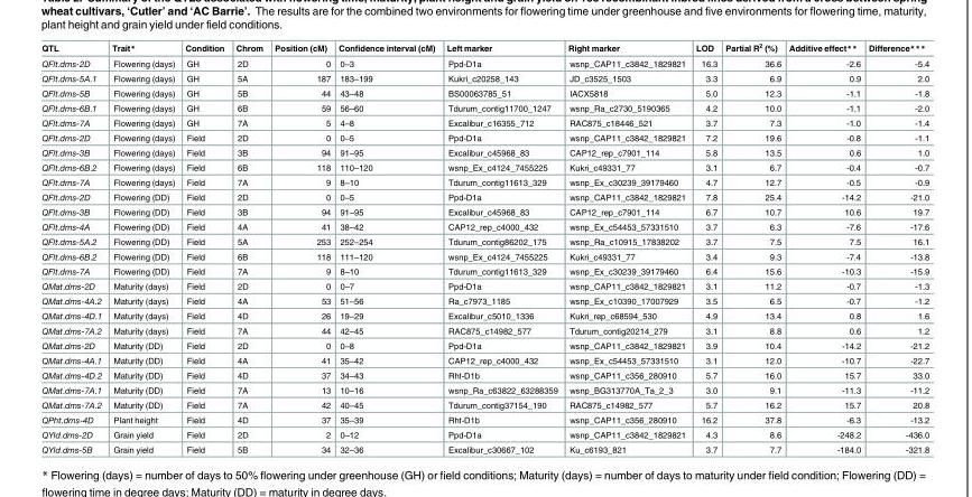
<table><thead><tr><td>QTL</td><td>Trait*</td><td>Condition</td><td>Chrom</td><td>Position (cM)</td><td>Confidence interval (cM)</td><td>Left marker</td><td>Right marker</td><td>LOD</td><td>Partial R<sup>2</sup> (%)</td><td>Additive effect**</td><td>Difference***</td></tr></thead><tbody><tr><td>QFlt.dms-2D</td><td>Flowering (days)</td><td>GH</td><td>2D</td><td>0</td><td>0–3</td><td>Ppd-D1a</td><td>wsnp_CAP11_c3842_1829821</td><td>16.3</td><td>36.6</td><td>-2.6</td><td>-5.4</td></tr><tr><td>QFlt.dms-5A.1</td><td>Flowering (days)</td><td>GH</td><td>5A</td><td>187</td><td>183–199</td><td>Kukri_c20258_143</td><td>JD_c3525_1503</td><td>3.3</td><td>6.9</td><td>0.9</td><td>2.0</td></tr><tr><td>QFlt.dms-5B</td><td>Flowering (days)</td><td>GH</td><td>5B</td><td>44</td><td>43–48</td><td>BS00063785_51</td><td>IACX5818</td><td>5.0</td><td>12.3</td><td>-1.1</td><td>-1.8</td></tr><tr><td>QFlt.dms-6B.1</td><td>Flowering (days)</td><td>GH</td><td>6B</td><td>59</td><td>56–60</td><td>Tdurum_contig11700_1247</td><td>wsnp_Ra_c2730_5190365</td><td>4.2</td><td>10.0</td><td>-1.1</td><td>-2.0</td></tr><tr><td>QFlt.dms-7A</td><td>Flowering (days)</td><td>GH</td><td>7A</td><td>5</td><td>4–8</td><td>Excalibur_c16355_712</td><td>RAC875_c18446_521</td><td>3.7</td><td>7.3</td><td>-1.0</td><td>-1.4</td></tr><tr><td>QFlt.dms-2D</td><td>Flowering (days)</td><td>Field</td><td>2D</td><td>0</td><td>0–5</td><td>Ppd-D1a</td><td>wsnp_CAP11_c3842_1829821</td><td>7.2</td><td>19.6</td><td>-0.8</td><td>-1.1</td></tr><tr><td>QFlt.dms-3B</td><td>Flowering (days)</td><td>Field</td><td>3B</td><td>94</td><td>91–95</td><td>Excalibur_c45968_83</td><td>CAP12_rep_c7901_114</td><td>5.8</td><td>13.5</td><td>0.6</td><td>1.0</td></tr><tr><td>QFlt.dms-6B.2</td><td>Flowering (days)</td><td>Field</td><td>6B</td><td>118</td><td>110–120</td><td>wsnp_Ex_c4124_7455225</td><td>Kukri_c49331_77</td><td>3.1</td><td>6.7</td><td>-0.4</td><td>-0.7</td></tr><tr><td>QFlt.dms-7A</td><td>Flowering (days)</td><td>Field</td><td>7A</td><td>9</td><td>8–10</td><td>Tdurum_contig11613_329</td><td>wsnp_Ex_c30239_39179460</td><td>4.7</td><td>12.7</td><td>-0.5</td><td>-0.9</td></tr><tr><td>QFlt.dms-2D</td><td>Flowering (DD)</td><td>Field</td><td>2D</td><td>0</td><td>0–5</td><td>Ppd-D1a</td><td>wsnp_CAP11_c3842_1829821</td><td>7.8</td><td>25.4</td><td>-14.2</td><td>-21.0</td></tr><tr><td>QFlt.dms-3B</td><td>Flowering (DD)</td><td>Field</td><td>3B</td><td>94</td><td>91–95</td><td>Excalibur_c45968_83</td><td>CAP12_rep_c7901_114</td><td>6.7</td><td>10.7</td><td>10.6</td><td>19.7</td></tr><tr><td>QFlt.dms-4A</td><td>Flowering (DD)</td><td>Field</td><td>4A</td><td>41</td><td>38–42</td><td>CAP12_rep_c4000_432</td><td>wsnp_Ex_c54453_57331510</td><td>3.7</td><td>6.3</td><td>-7.6</td><td>-17.6</td></tr><tr><td>QFlt.dms-5A.2</td><td>Flowering (DD)</td><td>Field</td><td>5A</td><td>253</td><td>252–254</td><td>Tdurum_contig86202_175</td><td>wsnp_Ra_c10915_17838202</td><td>3.7</td><td>7.5</td><td>7.5</td><td>16.1</td></tr><tr><td>QFlt.dms-6B.2</td><td>Flowering (DD)</td><td>Field</td><td>6B</td><td>118</td><td>111–120</td><td>wsnp_Ex_c4124_7455225</td><td>Kukri_c49331_77</td><td>3.4</td><td>9.3</td><td>-7.4</td><td>-13.8</td></tr><tr><td>QFlt.dms-7A</td><td>Flowering (DD)</td><td>Field</td><td>7A</td><td>9</td><td>8–10</td><td>Tdurum_contig11613_329</td><td>wsnp_Ex_c30239_39179460</td><td>6.4</td><td>15.6</td><td>-10.3</td><td>-15.9</td></tr><tr><td>QMat.dms-2D</td><td>Maturity (days)</td><td>Field</td><td>2D</td><td>0</td><td>0–7</td><td>Ppd-D1a</td><td>wsnp_CAP11_c3842_1829821</td><td>3.1</td><td>11.2</td><td>-0.7</td><td>-1.3</td></tr><tr><td>QMat.dms-4A.2</td><td>Maturity (days)</td><td>Field</td><td>4A</td><td>53</td><td>51–56</td><td>Ra_c7973_1185</td><td>wsnp_Ex_c10390_17007929</td><td>3.5</td><td>6.5</td><td>-0.7</td><td>-1.2</td></tr><tr><td>QMat.dms-4D.1</td><td>Maturity (days)</td><td>Field</td><td>4D</td><td>26</td><td>19–29</td><td>Excalibur_c5010_1336</td><td>Kukri_rep_c68594_530</td><td>4.9</td><td>13.4</td><td>0.8</td><td>1.6</td></tr><tr><td>QMat.dms-7A.2</td><td>Maturity (days)</td><td>Field</td><td>7A</td><td>44</td><td>42–45</td><td>RAC875_c14982_577</td><td>Tdurum_contig20214_279</td><td>3.1</td><td>8.8</td><td>0.6</td><td>1.2</td></tr><tr><td>QMat.dms-2D</td><td>Maturity (DD)</td><td>Field</td><td>2D</td><td>0</td><td>0–8</td><td>Ppd-D1a</td><td>wsnp_CAP11_c3842_1829821</td><td>3.9</td><td>10.4</td><td>-14.2</td><td>-21.2</td></tr><tr><td>QMat.dms-4A.1</td><td>Maturity (DD)</td><td>Field</td><td>4A</td><td>41</td><td>35–42</td><td>CAP12_rep_c4000_432</td><td>wsnp_Ex_c54453_57331510</td><td>3.1</td><td>12.0</td><td>-10.7</td><td>-22.7</td></tr><tr><td>QMat.dms-4D.2</td><td>Maturity (DD)</td><td>Field</td><td>4D</td><td>37</td><td>34–43</td><td>Rht-D1b</td><td>wsnp_CAP11_c356_280910</td><td>5.7</td><td>16.0</td><td>15.7</td><td>33.0</td></tr><tr><td>QMat.dms-7A.1</td><td>Maturity (DD)</td><td>Field</td><td>7A</td><td>13</td><td>10–16</td><td>wsnp_Ra_c63822_63288359</td><td>wsnp_BG313770A_Ta_2_3</td><td>3.0</td><td>9.1</td><td>-11.3</td><td>-11.2</td></tr><tr><td>QMat.dms-7A.2</td><td>Maturity (DD)</td><td>Field</td><td>7A</td><td>42</td><td>40–45</td><td>Tdurum_contig37154_190</td><td>RAC875_c14982_577</td><td>5.7</td><td>16.2</td><td>15.7</td><td>20.8</td></tr><tr><td>QPht.dms-4D</td><td>Plant height</td><td>Field</td><td>4D</td><td>37</td><td>35–39</td><td>Rht-D1b</td><td>wsnp_CAP11_c356_280910</td><td>16.2</td><td>37.8</td><td>-6.3</td><td>-13.2</td></tr><tr><td>QYld.dms-2D</td><td>Grain yield</td><td>Field</td><td>2D</td><td>2</td><td>0–12</td><td>Ppd-D1a</td><td>wsnp_CAP11_c3842_1829821</td><td>4.3</td><td>8.6</td><td>-248.2</td><td>-436.0</td></tr><tr><td>QYld.dms-5B</td><td>Grain yield</td><td>Field</td><td>5B</td><td>34</td><td>32–36</td><td>Excalibur_c30667_102</td><td>Ku_c6193_821</td><td>3.7</td><td>7.7</td><td>-184.0</td><td>-321.8</td></tr></tbody></table>